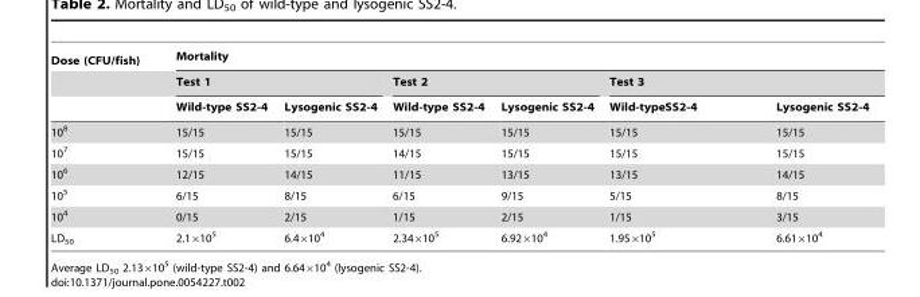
<table><thead><tr><td rowspan="3">Dose (CFU/fish)</td><td colspan="6">Mortality</td></tr><tr><td colspan="2">Test 1</td><td colspan="2">Test 2</td><td colspan="2">Test 3</td></tr><tr><td>Wild-type SS2-4</td><td>Lysogenic SS2-4</td><td>Wild-type SS2-4</td><td>Lysogenic SS2-4</td><td>Wild-typeSS2-4</td><td>Lysogenic SS2-4</td></tr></thead><tbody><tr><td>10<sup>8</sup></td><td>15/15</td><td>15/15</td><td>15/15</td><td>15/15</td><td>15/15</td><td>15/15</td></tr><tr><td>10<sup>7</sup></td><td>15/15</td><td>15/15</td><td>14/15</td><td>15/15</td><td>15/15</td><td>15/15</td></tr><tr><td>10<sup>6</sup></td><td>12/15</td><td>14/15</td><td>11/15</td><td>13/15</td><td>13/15</td><td>14/15</td></tr><tr><td>10<sup>5</sup></td><td>6/15</td><td>8/15</td><td>6/15</td><td>9/15</td><td>5/15</td><td>8/15</td></tr><tr><td>10<sup>4</sup></td><td>0/15</td><td>2/15</td><td>1/15</td><td>2/15</td><td>1/15</td><td>3/15</td></tr><tr><td>LD<sub>50</sub></td><td>2.1×10<sup>5</sup></td><td>6.4×10<sup>4</sup></td><td>2.34×10<sup>5</sup></td><td>6.92×10<sup>4</sup></td><td>1.95×10<sup>5</sup></td><td>6.61×10<sup>4</sup></td></tr></tbody></table>